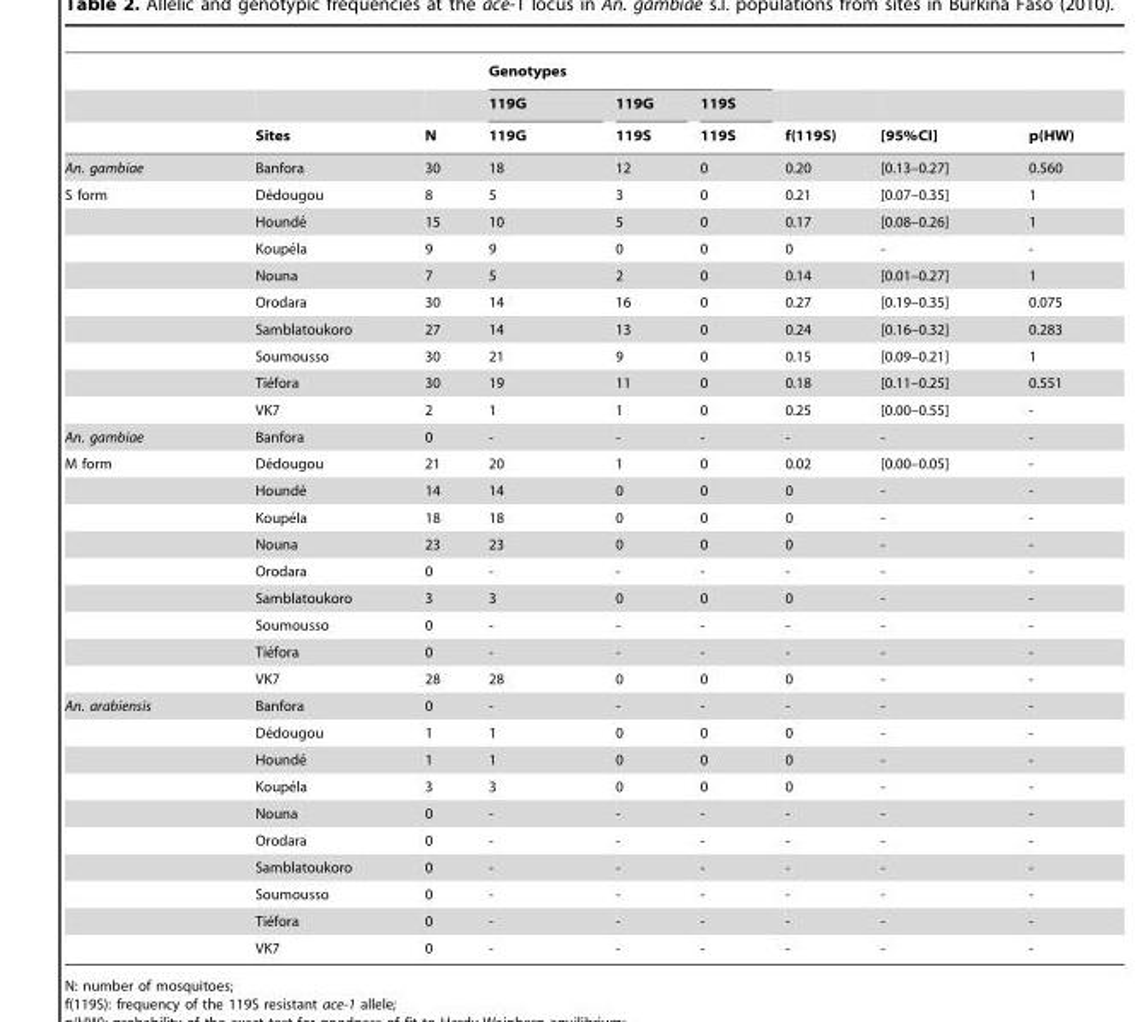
<table><thead><tr><td rowspan="3"></td><td rowspan="3">Sites</td><td rowspan="3">N</td><td colspan="3">Genotypes</td><td rowspan="3">f(119S)</td><td rowspan="3">[95%CI]</td><td rowspan="3">p(HW)</td></tr><tr><td rowspan="2">119G 119G</td><td rowspan="2">119G 119S</td><td rowspan="2">119S 119S</td></tr><tr></tr></thead><tbody><tr><td>An. gambiae</td><td>Banfora</td><td>30</td><td>18</td><td>12</td><td>0</td><td>0.20</td><td>[0.13–0.27]</td><td>0.560</td></tr><tr><td rowspan="9">S form</td><td>De´dougou</td><td>8</td><td>5</td><td>3</td><td>0</td><td>0.21</td><td>[0.07–0.35]</td><td>1</td></tr><tr><td>Hounde´</td><td>15</td><td>10</td><td>5</td><td>0</td><td>0.17</td><td>[0.08–0.26]</td><td>1</td></tr><tr><td>Koupe´la</td><td>9</td><td>9</td><td>0</td><td>0</td><td>0</td><td>-</td><td>-</td></tr><tr><td>Nouna</td><td>7</td><td>5</td><td>2</td><td>0</td><td>0.14</td><td>[0.01–0.27]</td><td>1</td></tr><tr><td>Orodara</td><td>30</td><td>14</td><td>16</td><td>0</td><td>0.27</td><td>[0.19–0.35]</td><td>0.075</td></tr><tr><td>Samblatoukoro</td><td>27</td><td>14</td><td>13</td><td>0</td><td>0.24</td><td>[0.16–0.32]</td><td>0.283</td></tr><tr><td>Soumousso</td><td>30</td><td>21</td><td>9</td><td>0</td><td>0.15</td><td>[0.09–0.21]</td><td>1</td></tr><tr><td>Tie´fora</td><td>30</td><td>19</td><td>11</td><td>0</td><td>0.18</td><td>[0.11–0.25]</td><td>0.551</td></tr><tr><td>VK7</td><td>2</td><td>1</td><td>1</td><td>0</td><td>0.25</td><td>[0.00–0.55]</td><td>-</td></tr><tr><td>An. gambiae</td><td>Banfora</td><td>0</td><td>-</td><td>-</td><td>-</td><td>-</td><td>-</td><td>-</td></tr><tr><td rowspan="9">M form</td><td>De´dougou</td><td>21</td><td>20</td><td>1</td><td>0</td><td>0.02</td><td>[0.00–0.05]</td><td>-</td></tr><tr><td>Hounde´</td><td>14</td><td>14</td><td>0</td><td>0</td><td>0</td><td>-</td><td>-</td></tr><tr><td>Koupe´la</td><td>18</td><td>18</td><td>0</td><td>0</td><td>0</td><td>-</td><td>-</td></tr><tr><td>Nouna</td><td>23</td><td>23</td><td>0</td><td>0</td><td>0</td><td>-</td><td>-</td></tr><tr><td>Orodara</td><td>0</td><td>-</td><td>-</td><td>-</td><td>-</td><td>-</td><td>-</td></tr><tr><td>Samblatoukoro</td><td>3</td><td>3</td><td>0</td><td>0</td><td>0</td><td>-</td><td>-</td></tr><tr><td>Soumousso</td><td>0</td><td>-</td><td>-</td><td>-</td><td>-</td><td>-</td><td>-</td></tr><tr><td>Tie´fora</td><td>0</td><td>-</td><td>-</td><td>-</td><td>-</td><td>-</td><td>-</td></tr><tr><td>VK7</td><td>28</td><td>28</td><td>0</td><td>0</td><td>0</td><td>-</td><td>-</td></tr><tr><td rowspan="10">An. arabiensis</td><td>Banfora</td><td>0</td><td>-</td><td>-</td><td>-</td><td>-</td><td>-</td><td>-</td></tr><tr><td>De´dougou</td><td>1</td><td>1</td><td>0</td><td>0</td><td>0</td><td>-</td><td>-</td></tr><tr><td>Hounde´</td><td>1</td><td>1</td><td>0</td><td>0</td><td>0</td><td>-</td><td>-</td></tr><tr><td>Koupe´la</td><td>3</td><td>3</td><td>0</td><td>0</td><td>0</td><td>-</td><td>-</td></tr><tr><td>Nouna</td><td>0</td><td>-</td><td>-</td><td>-</td><td>-</td><td>-</td><td>-</td></tr><tr><td>Orodara</td><td>0</td><td>-</td><td>-</td><td>-</td><td>-</td><td>-</td><td>-</td></tr><tr><td>Samblatoukoro</td><td>0</td><td>-</td><td>-</td><td>-</td><td>-</td><td>-</td><td>-</td></tr><tr><td>Soumousso</td><td>0</td><td>-</td><td>-</td><td>-</td><td>-</td><td>-</td><td>-</td></tr><tr><td>Tie´fora</td><td>0</td><td>-</td><td>-</td><td>-</td><td>-</td><td>-</td><td>-</td></tr><tr><td>VK7</td><td>0</td><td>-</td><td>-</td><td>-</td><td>-</td><td>-</td><td>-</td></tr></tbody></table>